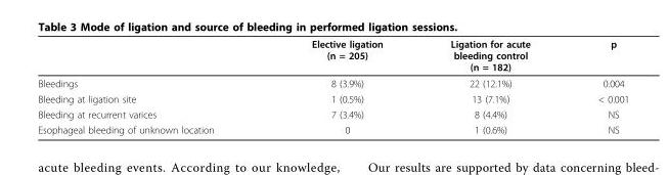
<table><thead><tr><td></td><td>Elective ligation (n = 205)</td><td>Ligation for acute bleeding control (n = 182)</td><td>p</td></tr></thead><tbody><tr><td>Bleedings</td><td>8 (3.9%)</td><td>22 (12.1%)</td><td>0.004</td></tr><tr><td>Bleeding at ligation site</td><td>1 (0.5%)</td><td>13 (7.1%)</td><td>&lt; 0.001</td></tr><tr><td>Bleeding at recurrent varices</td><td>7 (3.4%)</td><td>8 (4.4%)</td><td>NS</td></tr><tr><td>Esophageal bleeding of unknown location</td><td>0</td><td>1 (0.6%)</td><td>NS</td></tr></tbody></table>